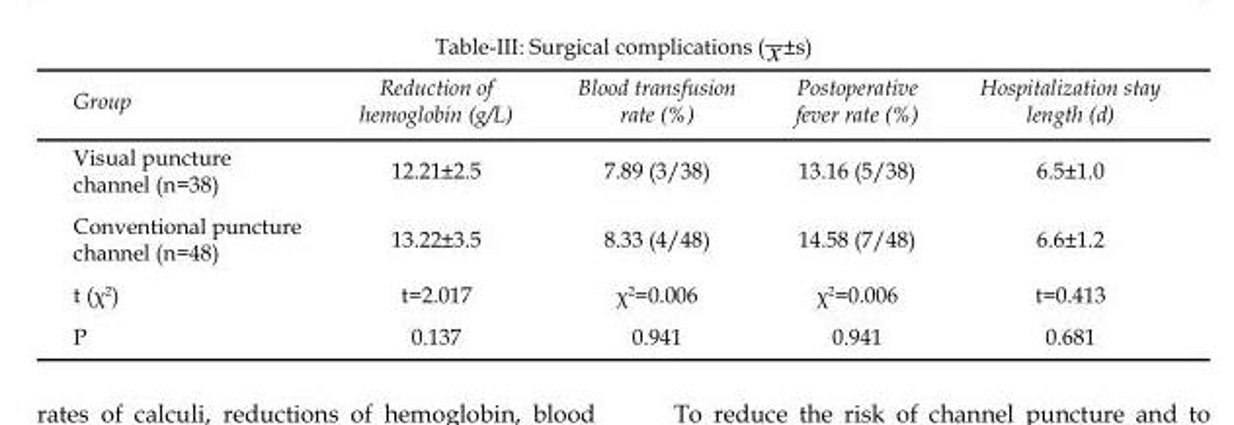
<table><thead><tr><td>Group</td><td>Reduction of hemoglobin (g/L)</td><td>Blood transfusion rate (%)</td><td>Postoperative fever rate (%)</td><td>Hospitalization stay length (d)</td></tr></thead><tbody><tr><td>Visual puncture channel (n=38)</td><td>12.21±2.5</td><td>7.89 (3/38)</td><td>13.16 (5/38)</td><td>6.5±1.0</td></tr><tr><td>Conventional puncture channel (n=48)</td><td>13.22±3.5</td><td>8.33 (4/48)</td><td>14.58 (7/48)</td><td>6.6±1.2</td></tr><tr><td>t (χ<sup>2</sup>)</td><td>t=2.017</td><td>χ<sup>2</sup>=0.006</td><td>χ<sup>2</sup>=0.006</td><td>t=0.413</td></tr><tr><td>P</td><td>0.137</td><td>0.941</td><td>0.941</td><td>0.681</td></tr></tbody></table>